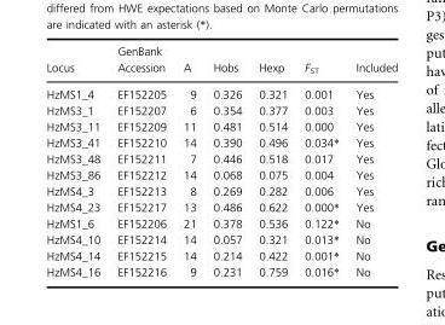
<table><thead><tr><td>Locus</td><td>GenBank Accession</td><td>A</td><td>Hobs</td><td>Hexp</td><td>F<sub>ST</sub></td><td>Included</td></tr></thead><tbody><tr><td>HzMS1_4</td><td>EF152205</td><td>9</td><td>0.326</td><td>0.321</td><td>0.001</td><td>Yes</td></tr><tr><td>HzMS3_1</td><td>EF152207</td><td>6</td><td>0.354</td><td>0.377</td><td>0.003</td><td>Yes</td></tr><tr><td>HzMS3_11</td><td>EF152209</td><td>11</td><td>0.481</td><td>0.514</td><td>0.000</td><td>Yes</td></tr><tr><td>HzMS3_41</td><td>EF152210</td><td>14</td><td>0.390</td><td>0.496</td><td>0.034*</td><td>Yes</td></tr><tr><td>HzMS3_48</td><td>EF152211</td><td>7</td><td>0.446</td><td>0.518</td><td>0.017</td><td>Yes</td></tr><tr><td>HzMS3_86</td><td>EF152212</td><td>14</td><td>0.068</td><td>0.075</td><td>0.004</td><td>Yes</td></tr><tr><td>HzMS4_3</td><td>EF152213</td><td>8</td><td>0.269</td><td>0.282</td><td>0.006</td><td>Yes</td></tr><tr><td>HzMS4_23</td><td>EF152217</td><td>13</td><td>0.486</td><td>0.622</td><td>0.000*</td><td>Yes</td></tr><tr><td>HzMS1_6</td><td>EF152206</td><td>21</td><td>0.378</td><td>0.536</td><td>0.122*</td><td>No</td></tr><tr><td>HzMS4_10</td><td>EF152214</td><td>14</td><td>0.057</td><td>0.321</td><td>0.013*</td><td>No</td></tr><tr><td>HzMS4_14</td><td>EF152215</td><td>14</td><td>0.214</td><td>0.422</td><td>0.001*</td><td>No</td></tr><tr><td>HzMS4_16</td><td>EF152216</td><td>9</td><td>0.231</td><td>0.759</td><td>0.016*</td><td>No</td></tr></tbody></table>